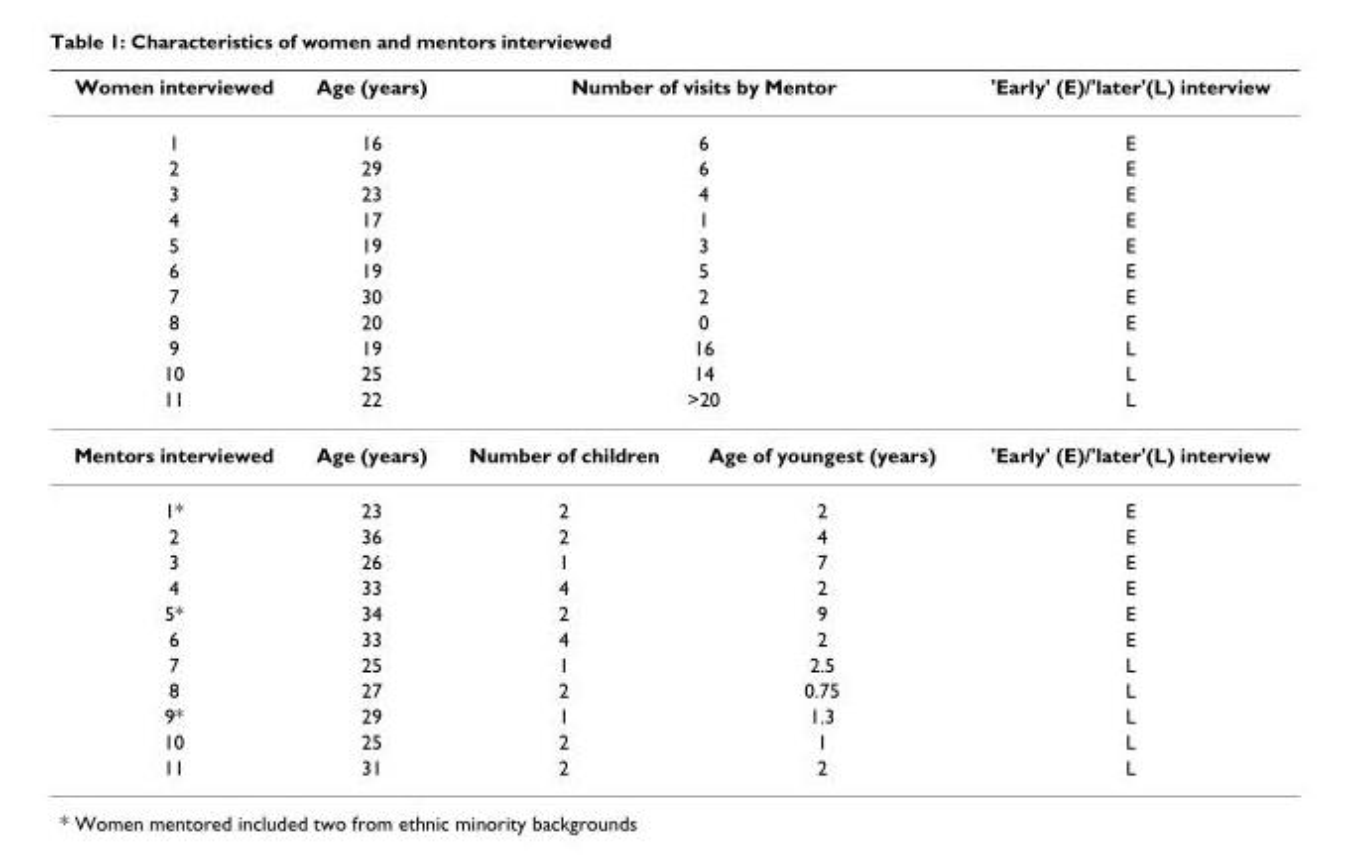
<table><thead><tr><td>Women interviewed</td><td>Age (years)</td><td colspan="2">Number of visits by Mentor</td><td>&#x27;Early&#x27; (E)/&#x27;later&#x27;(L) interview</td></tr></thead><tbody><tr><td>1</td><td>16</td><td colspan="2">6</td><td>E</td></tr><tr><td>2</td><td>29</td><td colspan="2">6</td><td>E</td></tr><tr><td>3</td><td>23</td><td colspan="2">4</td><td>E</td></tr><tr><td>4</td><td>17</td><td colspan="2">1</td><td>E</td></tr><tr><td>5</td><td>19</td><td colspan="2">3</td><td>E</td></tr><tr><td>6</td><td>19</td><td colspan="2">5</td><td>E</td></tr><tr><td>7</td><td>30</td><td colspan="2">2</td><td>E</td></tr><tr><td>8</td><td>20</td><td colspan="2">0</td><td>E</td></tr><tr><td>9</td><td>19</td><td colspan="2">16</td><td>L</td></tr><tr><td>10</td><td>25</td><td colspan="2">14</td><td>L</td></tr><tr><td>11</td><td>22</td><td colspan="2">&gt;20</td><td>L</td></tr><tr><td>Mentors interviewed</td><td>Age (years)</td><td>Number of children</td><td>Age of youngest (years)</td><td>&#x27;Early&#x27; (E)/&#x27;later&#x27;(L) interview</td></tr><tr><td>1*</td><td>23</td><td>2</td><td>2</td><td>E</td></tr><tr><td>2</td><td>36</td><td>2</td><td>4</td><td>E</td></tr><tr><td>3</td><td>26</td><td>1</td><td>7</td><td>E</td></tr><tr><td>4</td><td>33</td><td>4</td><td>2</td><td>E</td></tr><tr><td>5*</td><td>34</td><td>2</td><td>9</td><td>E</td></tr><tr><td>6</td><td>33</td><td>4</td><td>2</td><td>E</td></tr><tr><td>7</td><td>25</td><td>1</td><td>2.5</td><td>L</td></tr><tr><td>8</td><td>27</td><td>2</td><td>0.75</td><td>L</td></tr><tr><td>9*</td><td>29</td><td>1</td><td>1.3</td><td>L</td></tr><tr><td>10</td><td>25</td><td>2</td><td>1</td><td>L</td></tr><tr><td>11</td><td>31</td><td>2</td><td>2</td><td>L</td></tr></tbody></table>